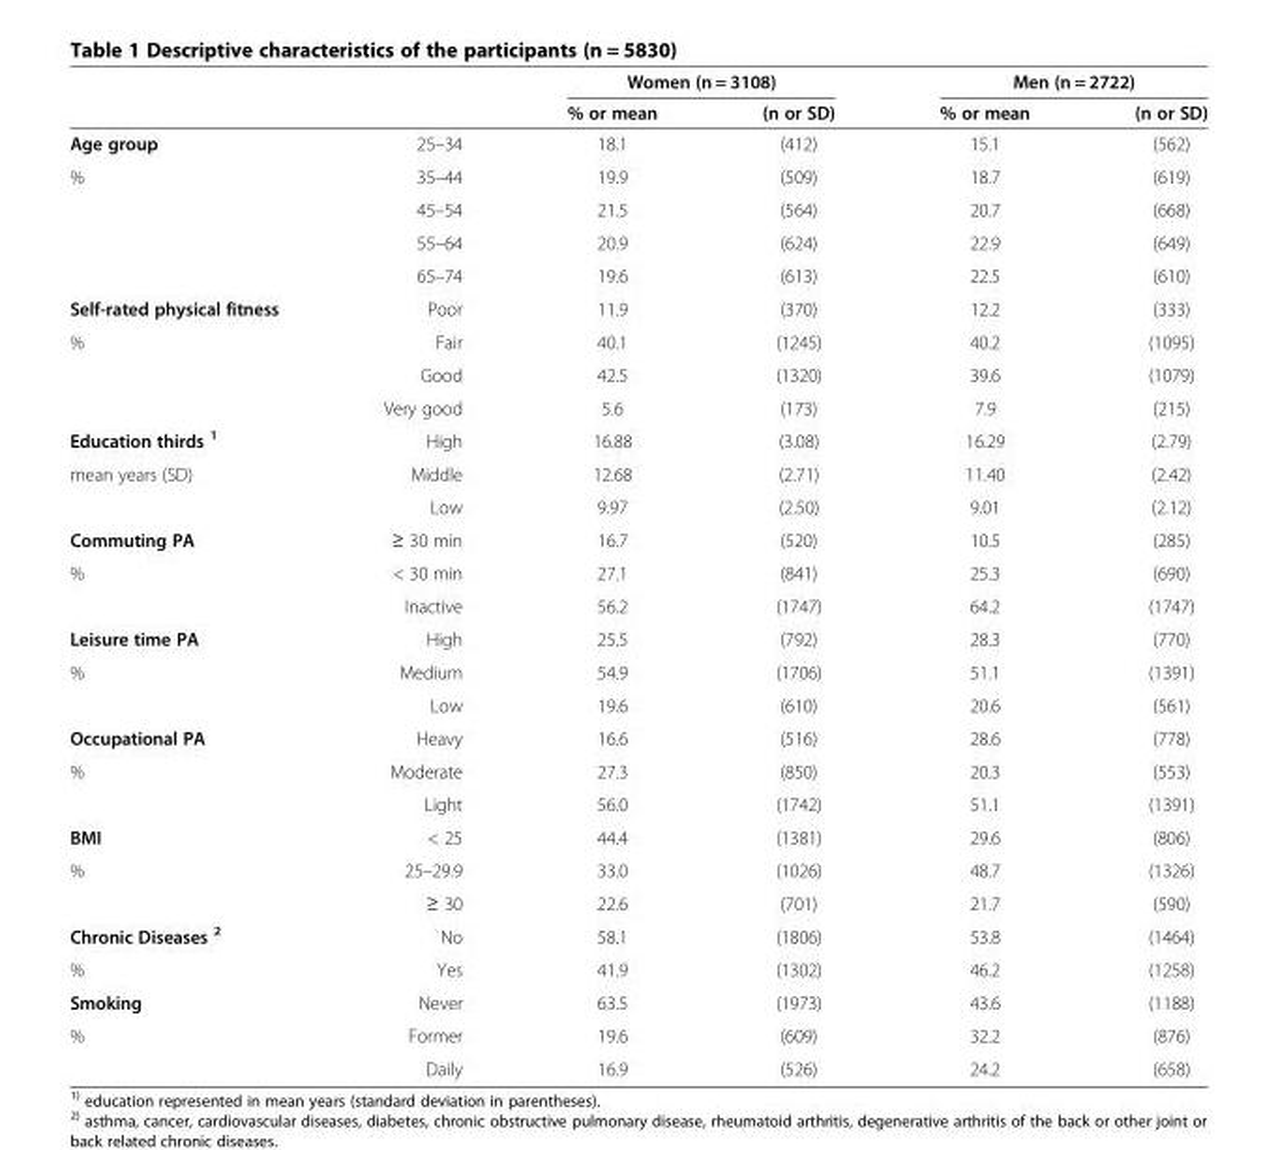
<table><thead><tr><td rowspan="2"></td><td rowspan="2"></td><td colspan="2">Women (n = 3108)</td><td colspan="2">Men (n = 2722)</td></tr><tr><td>% or mean</td><td>(n or SD)</td><td>% or mean</td><td>(n or SD)</td></tr></thead><tbody><tr><td>Age group</td><td>25–34</td><td>18.1</td><td>(412)</td><td>15.1</td><td>(562)</td></tr><tr><td rowspan="4">%</td><td>35–44</td><td>19.9</td><td>(509)</td><td>18.7</td><td>(619)</td></tr><tr><td>45–54</td><td>21.5</td><td>(564)</td><td>20.7</td><td>(668)</td></tr><tr><td>55–64</td><td>20.9</td><td>(624)</td><td>22.9</td><td>(649)</td></tr><tr><td>65–74</td><td>19.6</td><td>(613)</td><td>22.5</td><td>(610)</td></tr><tr><td>Self-rated physical fitness</td><td>Poor</td><td>11.9</td><td>(370)</td><td>12.2</td><td>(333)</td></tr><tr><td rowspan="3">%</td><td>Fair</td><td>40.1</td><td>(1245)</td><td>40.2</td><td>(1095)</td></tr><tr><td>Good</td><td>42.5</td><td>(1320)</td><td>39.6</td><td>(1079)</td></tr><tr><td>Very good</td><td>5.6</td><td>(173)</td><td>7.9</td><td>(215)</td></tr><tr><td>Education thirds <sup>1</sup></td><td>High</td><td>16.88</td><td>(3.08)</td><td>16.29</td><td>(2.79)</td></tr><tr><td rowspan="2">mean years (SD)</td><td>Middle</td><td>12.68</td><td>(2.71)</td><td>11.40</td><td>(2.42)</td></tr><tr><td>Low</td><td>9.97</td><td>(2.50)</td><td>9.01</td><td>(2.12)</td></tr><tr><td>Commuting PA</td><td>≥ 30 min</td><td>16.7</td><td>(520)</td><td>10.5</td><td>(285)</td></tr><tr><td rowspan="2">%</td><td>&lt; 30 min</td><td>27.1</td><td>(841)</td><td>25.3</td><td>(690)</td></tr><tr><td>Inactive</td><td>56.2</td><td>(1747)</td><td>64.2</td><td>(1747)</td></tr><tr><td>Leisure time PA</td><td>High</td><td>25.5</td><td>(792)</td><td>28.3</td><td>(770)</td></tr><tr><td rowspan="2">%</td><td>Medium</td><td>54.9</td><td>(1706)</td><td>51.1</td><td>(1391)</td></tr><tr><td>Low</td><td>19.6</td><td>(610)</td><td>20.6</td><td>(561)</td></tr><tr><td>Occupational PA</td><td>Heavy</td><td>16.6</td><td>(516)</td><td>28.6</td><td>(778)</td></tr><tr><td rowspan="2">%</td><td>Moderate</td><td>27.3</td><td>(850)</td><td>20.3</td><td>(553)</td></tr><tr><td>Light</td><td>56.0</td><td>(1742)</td><td>51.1</td><td>(1391)</td></tr><tr><td>BMI</td><td>&lt; 25</td><td>44.4</td><td>(1381)</td><td>29.6</td><td>(806)</td></tr><tr><td rowspan="2">%</td><td>25–29.9</td><td>33.0</td><td>(1026)</td><td>48.7</td><td>(1326)</td></tr><tr><td>≥ 30</td><td>22.6</td><td>(701)</td><td>21.7</td><td>(590)</td></tr><tr><td>Chronic Diseases <sup>2</sup></td><td>No</td><td>58.1</td><td>(1806)</td><td>53.8</td><td>(1464)</td></tr><tr><td>%</td><td>Yes</td><td>41.9</td><td>(1302)</td><td>46.2</td><td>(1258)</td></tr><tr><td>Smoking</td><td>Never</td><td>63.5</td><td>(1973)</td><td>43.6</td><td>(1188)</td></tr><tr><td rowspan="2">%</td><td>Former</td><td>19.6</td><td>(609)</td><td>32.2</td><td>(876)</td></tr><tr><td>Daily</td><td>16.9</td><td>(526)</td><td>24.2</td><td>(658)</td></tr></tbody></table>